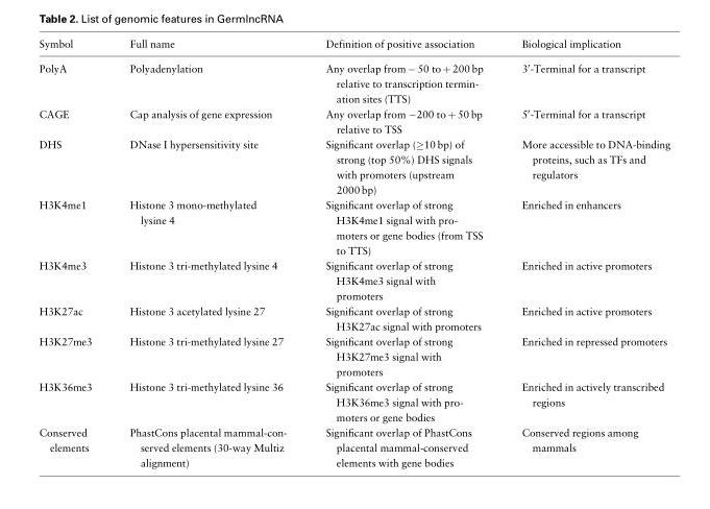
<table><thead><tr><td>Symbol</td><td>Full name</td><td>Definition of positive association</td><td>Biological implication</td></tr></thead><tbody><tr><td>PolyA</td><td>Polyadenylation</td><td>Any overlap from � 50 to þ 200 bp relative to transcription termin- ation sites (TTS)</td><td>3′-Terminal for a transcript</td></tr><tr><td>CAGE</td><td>Cap analysis of gene expression</td><td>Any overlap from −200 to + 50 bp relative to TSS</td><td>5′-Terminal for a transcript</td></tr><tr><td>DHS</td><td>DNase I hypersensitivity site</td><td>Significant overlap (≥10 bp) of strong (top 50%) DHS signals with promoters (upstream 2000 bp)</td><td>More accessible to DNA-binding proteins, such as TFs and regulators</td></tr><tr><td>H3K4me1</td><td>Histone 3 mono-methylated lysine 4</td><td>Significant overlap of strong H3K4me1 signal with pro- moters or gene bodies (from TSS to TTS)</td><td>Enriched in enhancers</td></tr><tr><td>H3K4me3</td><td>Histone 3 tri-methylated lysine 4</td><td>Significant overlap of strong H3K4me3 signal with promoters</td><td>Enriched in active promoters</td></tr><tr><td>H3K27ac</td><td>Histone 3 acetylated lysine 27</td><td>Significant overlap of strong H3K27ac signal with promoters</td><td>Enriched in active promoters</td></tr><tr><td>H3K27me3</td><td>Histone 3 tri-methylated lysine 27</td><td>Significant overlap of strong H3K27me3 signal with promoters</td><td>Enriched in repressed promoters</td></tr><tr><td>H3K36me3</td><td>Histone 3 tri-methylated lysine 36</td><td>Significant overlap of strong H3K36me3 signal with pro- moters or gene bodies</td><td>Enriched in actively transcribed regions</td></tr><tr><td>Conserved elements</td><td>PhastCons placental mammal-con- served elements (30-way Multiz alignment)</td><td>Significant overlap of PhastCons placental mammal-conserved elements with gene bodies</td><td>Conserved regions among mammals</td></tr></tbody></table>